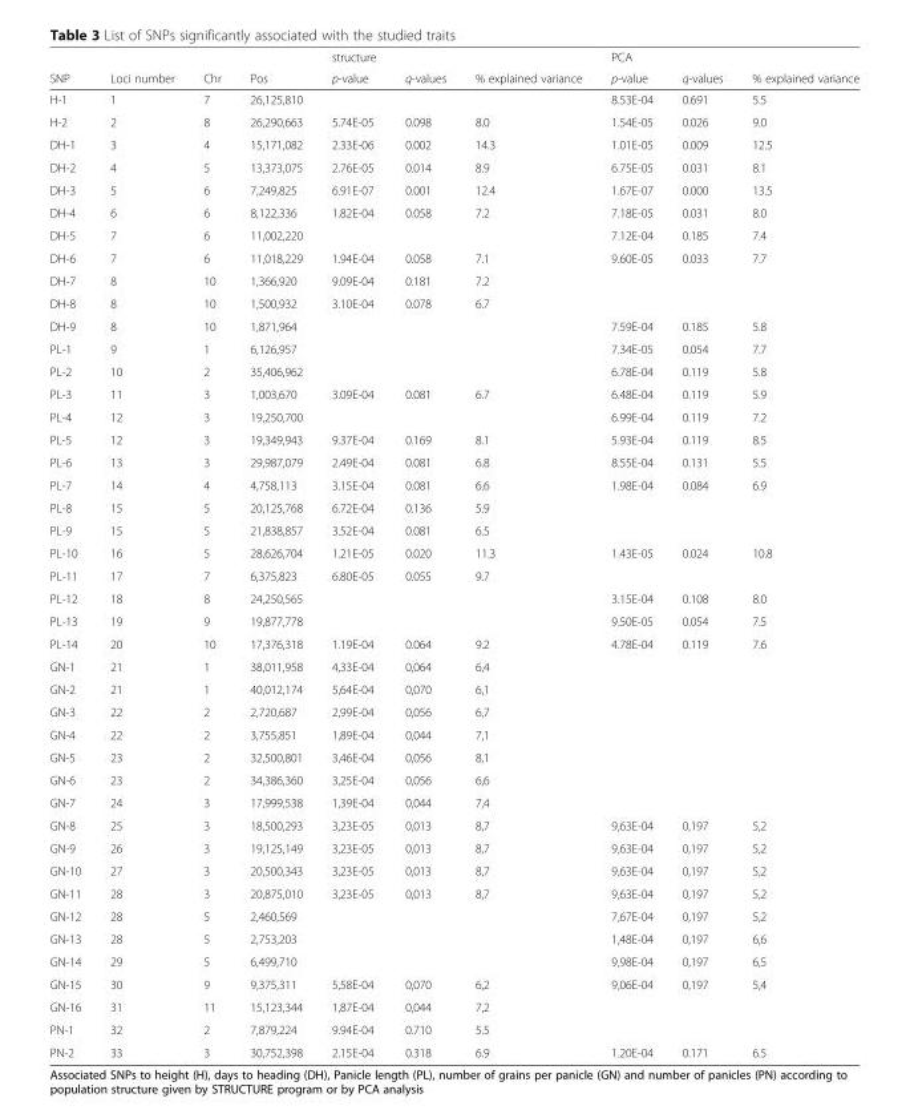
<table><thead><tr><td rowspan="2">SNP</td><td rowspan="2">Loci number</td><td rowspan="2">Chr</td><td rowspan="2">Pos</td><td rowspan="2">structure p-value</td><td rowspan="2">q-values</td><td rowspan="2">% explained variance</td><td rowspan="2">PCA p-value</td><td rowspan="2">q-values</td><td rowspan="2">% explained variance</td></tr><tr></tr></thead><tbody><tr><td>H-1</td><td>1</td><td>7</td><td>26,125,810</td><td></td><td></td><td></td><td>8.53E-04</td><td>0.691</td><td>5.5</td></tr><tr><td>H-2</td><td>2</td><td>8</td><td>26,290,663</td><td>5.74E-05</td><td>0.098</td><td>8.0</td><td>1.54E-05</td><td>0.026</td><td>9.0</td></tr><tr><td>DH-1</td><td>3</td><td>4</td><td>15,171,082</td><td>2.33E-06</td><td>0.002</td><td>14.3</td><td>1.01E-05</td><td>0.009</td><td>12.5</td></tr><tr><td>DH-2</td><td>4</td><td>5</td><td>13,373,075</td><td>2.76E-05</td><td>0.014</td><td>8.9</td><td>6.75E-05</td><td>0.031</td><td>8.1</td></tr><tr><td>DH-3</td><td>5</td><td>6</td><td>7,249,825</td><td>6.91E-07</td><td>0.001</td><td>12.4</td><td>1.67E-07</td><td>0.000</td><td>13.5</td></tr><tr><td>DH-4</td><td>6</td><td>6</td><td>8,122,336</td><td>1.82E-04</td><td>0.058</td><td>7.2</td><td>7.18E-05</td><td>0.031</td><td>8.0</td></tr><tr><td>DH-5</td><td>7</td><td>6</td><td>11,002,220</td><td></td><td></td><td></td><td>7.12E-04</td><td>0.185</td><td>7.4</td></tr><tr><td>DH-6</td><td>7</td><td>6</td><td>11,018,229</td><td>1.94E-04</td><td>0.058</td><td>7.1</td><td>9.60E-05</td><td>0.033</td><td>7.7</td></tr><tr><td>DH-7</td><td>8</td><td>10</td><td>1,366,920</td><td>9.09E-04</td><td>0.181</td><td>7.2</td><td></td><td></td><td></td></tr><tr><td>DH-8</td><td>8</td><td>10</td><td>1,500,932</td><td>3.10E-04</td><td>0.078</td><td>6.7</td><td></td><td></td><td></td></tr><tr><td>DH-9</td><td>8</td><td>10</td><td>1,871,964</td><td></td><td></td><td></td><td>7.59E-04</td><td>0.185</td><td>5.8</td></tr><tr><td>PL-1</td><td>9</td><td>1</td><td>6,126,957</td><td></td><td></td><td></td><td>7.34E-05</td><td>0.054</td><td>7.7</td></tr><tr><td>PL-2</td><td>10</td><td>2</td><td>35,406,962</td><td></td><td></td><td></td><td>6.78E-04</td><td>0.119</td><td>5.8</td></tr><tr><td>PL-3</td><td>11</td><td>3</td><td>1,003,670</td><td>3.09E-04</td><td>0.081</td><td>6.7</td><td>6.48E-04</td><td>0.119</td><td>5.9</td></tr><tr><td>PL-4</td><td>12</td><td>3</td><td>19,250,700</td><td></td><td></td><td></td><td>6.99E-04</td><td>0.119</td><td>7.2</td></tr><tr><td>PL-5</td><td>12</td><td>3</td><td>19,349,943</td><td>9.37E-04</td><td>0.169</td><td>8.1</td><td>5.93E-04</td><td>0.119</td><td>8.5</td></tr><tr><td>PL-6</td><td>13</td><td>3</td><td>29,987,079</td><td>2.49E-04</td><td>0.081</td><td>6.8</td><td>8.55E-04</td><td>0.131</td><td>5.5</td></tr><tr><td>PL-7</td><td>14</td><td>4</td><td>4,758,113</td><td>3.15E-04</td><td>0.081</td><td>6.6</td><td>1.98E-04</td><td>0.084</td><td>6.9</td></tr><tr><td>PL-8</td><td>15</td><td>5</td><td>20,125,768</td><td>6.72E-04</td><td>0.136</td><td>5.9</td><td></td><td></td><td></td></tr><tr><td>PL-9</td><td>15</td><td>5</td><td>21,838,857</td><td>3.52E-04</td><td>0.081</td><td>6.5</td><td></td><td></td><td></td></tr><tr><td>PL-10</td><td>16</td><td>5</td><td>28,626,704</td><td>1.21E-05</td><td>0.020</td><td>11.3</td><td>1.43E-05</td><td>0.024</td><td>10.8</td></tr><tr><td>PL-11</td><td>17</td><td>7</td><td>6,375,823</td><td>6.80E-05</td><td>0.055</td><td>9.7</td><td></td><td></td><td></td></tr><tr><td>PL-12</td><td>18</td><td>8</td><td>24,250,565</td><td></td><td></td><td></td><td>3.15E-04</td><td>0.108</td><td>8.0</td></tr><tr><td>PL-13</td><td>19</td><td>9</td><td>19,877,778</td><td></td><td></td><td></td><td>9.50E-05</td><td>0.054</td><td>7.5</td></tr><tr><td>PL-14</td><td>20</td><td>10</td><td>17,376,318</td><td>1.19E-04</td><td>0.064</td><td>9.2</td><td>4.78E-04</td><td>0.119</td><td>7.6</td></tr><tr><td>GN-1</td><td>21</td><td>1</td><td>38,011,958</td><td>4,33E-04</td><td>0,064</td><td>6,4</td><td></td><td></td><td></td></tr><tr><td>GN-2</td><td>21</td><td>1</td><td>40,012,174</td><td>5,64E-04</td><td>0,070</td><td>6,1</td><td></td><td></td><td></td></tr><tr><td>GN-3</td><td>22</td><td>2</td><td>2,720,687</td><td>2,99E-04</td><td>0,056</td><td>6,7</td><td></td><td></td><td></td></tr><tr><td>GN-4</td><td>22</td><td>2</td><td>3,755,851</td><td>1,89E-04</td><td>0,044</td><td>7,1</td><td></td><td></td><td></td></tr><tr><td>GN-5</td><td>23</td><td>2</td><td>32,500,801</td><td>3,46E-04</td><td>0,056</td><td>8,1</td><td></td><td></td><td></td></tr><tr><td>GN-6</td><td>23</td><td>2</td><td>34,386,360</td><td>3,25E-04</td><td>0,056</td><td>6,6</td><td></td><td></td><td></td></tr><tr><td>GN-7</td><td>24</td><td>3</td><td>17,999,538</td><td>1,39E-04</td><td>0,044</td><td>7,4</td><td></td><td></td><td></td></tr><tr><td>GN-8</td><td>25</td><td>3</td><td>18,500,293</td><td>3,23E-05</td><td>0,013</td><td>8,7</td><td>9,63E-04</td><td>0,197</td><td>5,2</td></tr><tr><td>GN-9</td><td>26</td><td>3</td><td>19,125,149</td><td>3,23E-05</td><td>0,013</td><td>8,7</td><td>9,63E-04</td><td>0,197</td><td>5,2</td></tr><tr><td>GN-10</td><td>27</td><td>3</td><td>20,500,343</td><td>3,23E-05</td><td>0,013</td><td>8,7</td><td>9,63E-04</td><td>0,197</td><td>5,2</td></tr><tr><td>GN-11</td><td>28</td><td>3</td><td>20,875,010</td><td>3,23E-05</td><td>0,013</td><td>8,7</td><td>9,63E-04</td><td>0,197</td><td>5,2</td></tr><tr><td>GN-12</td><td>28</td><td>5</td><td>2,460,569</td><td></td><td></td><td></td><td>7,67E-04</td><td>0,197</td><td>5,2</td></tr><tr><td>GN-13</td><td>28</td><td>5</td><td>2,753,203</td><td></td><td></td><td></td><td>1,48E-04</td><td>0,197</td><td>6,6</td></tr><tr><td>GN-14</td><td>29</td><td>5</td><td>6,499,710</td><td></td><td></td><td></td><td>9,98E-04</td><td>0,197</td><td>6,5</td></tr><tr><td>GN-15</td><td>30</td><td>9</td><td>9,375,311</td><td>5,58E-04</td><td>0,070</td><td>6,2</td><td>9,06E-04</td><td>0,197</td><td>5,4</td></tr><tr><td>GN-16</td><td>31</td><td>11</td><td>15,123,344</td><td>1,87E-04</td><td>0,044</td><td>7,2</td><td></td><td></td><td></td></tr><tr><td>PN-1</td><td>32</td><td>2</td><td>7,879,224</td><td>9.94E-04</td><td>0.710</td><td>5.5</td><td></td><td></td><td></td></tr><tr><td>PN-2</td><td>33</td><td>3</td><td>30,752,398</td><td>2.15E-04</td><td>0.318</td><td>6.9</td><td>1.20E-04</td><td>0.171</td><td>6.5</td></tr></tbody></table>